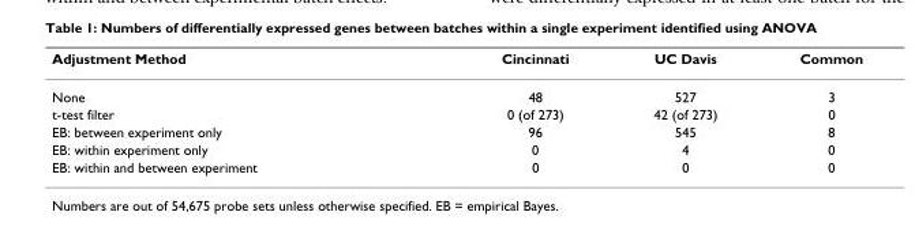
<table><thead><tr><td>Adjustment Method</td><td>Cincinnati</td><td>UC Davis</td><td>Common</td></tr></thead><tbody><tr><td>None</td><td>48</td><td>527</td><td>3</td></tr><tr><td>t-test filter</td><td>0 (of 273)</td><td>42 (of 273)</td><td>0</td></tr><tr><td>EB: between experiment only</td><td>96</td><td>545</td><td>8</td></tr><tr><td>EB: within experiment only</td><td>0</td><td>4</td><td>0</td></tr><tr><td>EB: within and between experiment</td><td>0</td><td>0</td><td>0</td></tr></tbody></table>